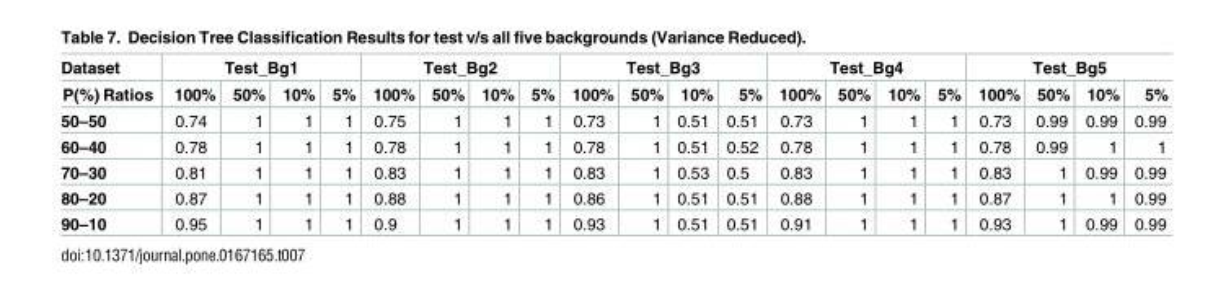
<table><thead><tr><td rowspan="2">Dataset P(%) Ratios</td><td colspan="4">Test_Bg1</td><td colspan="4">Test_Bg2</td><td colspan="4">Test_Bg3</td><td colspan="4">Test_Bg4</td><td colspan="4">Test_Bg5</td></tr><tr><td>100%</td><td>50%</td><td>10%</td><td>5%</td><td>100%</td><td>50%</td><td>10%</td><td>5%</td><td>100%</td><td>50%</td><td>10%</td><td>5%</td><td>100%</td><td>50%</td><td>10%</td><td>5%</td><td>100%</td><td>50%</td><td>10%</td><td>5%</td></tr></thead><tbody><tr><td>50–50</td><td>0.74</td><td>1</td><td>1</td><td>1</td><td>0.75</td><td>1</td><td>1</td><td>1</td><td>0.73</td><td>1</td><td>0.51</td><td>0.51</td><td>0.73</td><td>1</td><td>1</td><td>1</td><td>0.73</td><td>0.99</td><td>0.99</td><td>0.99</td></tr><tr><td>60–40</td><td>0.78</td><td>1</td><td>1</td><td>1</td><td>0.78</td><td>1</td><td>1</td><td>1</td><td>0.78</td><td>1</td><td>0.51</td><td>0.52</td><td>0.78</td><td>1</td><td>1</td><td>1</td><td>0.78</td><td>0.99</td><td>1</td><td>1</td></tr><tr><td>70–30</td><td>0.81</td><td>1</td><td>1</td><td>1</td><td>0.83</td><td>1</td><td>1</td><td>1</td><td>0.83</td><td>1</td><td>0.53</td><td>0.5</td><td>0.83</td><td>1</td><td>1</td><td>1</td><td>0.83</td><td>1</td><td>0.99</td><td>0.99</td></tr><tr><td>80–20</td><td>0.87</td><td>1</td><td>1</td><td>1</td><td>0.88</td><td>1</td><td>1</td><td>1</td><td>0.86</td><td>1</td><td>0.51</td><td>0.51</td><td>0.88</td><td>1</td><td>1</td><td>1</td><td>0.87</td><td>1</td><td>1</td><td>0.99</td></tr><tr><td>90–10</td><td>0.95</td><td>1</td><td>1</td><td>1</td><td>0.9</td><td>1</td><td>1</td><td>1</td><td>0.93</td><td>1</td><td>0.51</td><td>0.51</td><td>0.91</td><td>1</td><td>1</td><td>1</td><td>0.93</td><td>1</td><td>0.99</td><td>0.99</td></tr></tbody></table>